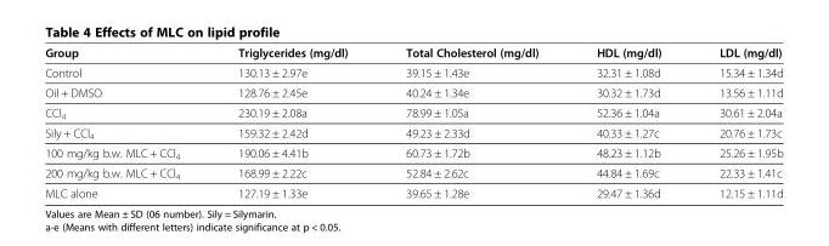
<table><thead><tr><td>Group</td><td>Triglycerides (mg/dl)</td><td>Total Cholesterol (mg/dl)</td><td>HDL (mg/dl)</td><td>LDL (mg/dl)</td></tr></thead><tbody><tr><td>Control</td><td>130.13 ± 2.97e</td><td>39.15 ± 1.43e</td><td>32.31 ± 1.08d</td><td>15.34 ± 1.34d</td></tr><tr><td>Oil + DMSO</td><td>128.76 ± 2.45e</td><td>40.24 ± 1.34e</td><td>30.32 ± 1.73d</td><td>13.56 ± 1.11d</td></tr><tr><td>CCl<sub>4</sub></td><td>230.19 ± 2.08a</td><td>78.99 ± 1.05a</td><td>52.36 ± 1.04a</td><td>30.61 ± 2.04a</td></tr><tr><td>Sily + CCl<sub>4</sub></td><td>159.32 ± 2.42d</td><td>49.23 ± 2.33d</td><td>40.33 ± 1.27c</td><td>20.76 ± 1.73c</td></tr><tr><td>100 mg/kg b.w. MLC + CCl<sub>4</sub></td><td>190.06 ± 4.41b</td><td>60.73 ± 1.72b</td><td>48.23 ± 1.12b</td><td>25.26 ± 1.95b</td></tr><tr><td>200 mg/kg b.w. MLC + CCl<sub>4</sub></td><td>168.99 ± 2.22c</td><td>52.84 ± 2.62c</td><td>44.84 ± 1.69c</td><td>22.33 ± 1.41c</td></tr><tr><td>MLC alone</td><td>127.19 ± 1.33e</td><td>39.65 ± 1.28e</td><td>29.47 ± 1.36d</td><td>12.15 ± 1.11d</td></tr></tbody></table>